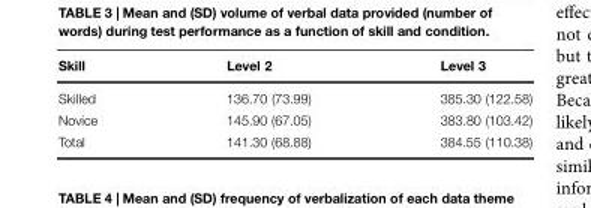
<table><thead><tr><td>Skill</td><td>Level 2</td><td>Level 3</td></tr></thead><tbody><tr><td>Skilled</td><td>136.70 (73.99)</td><td>385.30 (122.58)</td></tr><tr><td>Novice</td><td>145.90 (67.05)</td><td>383.80 (103.42)</td></tr><tr><td>Total</td><td>141.30 (68.88)</td><td>384.55 (110.38)</td></tr></tbody></table>